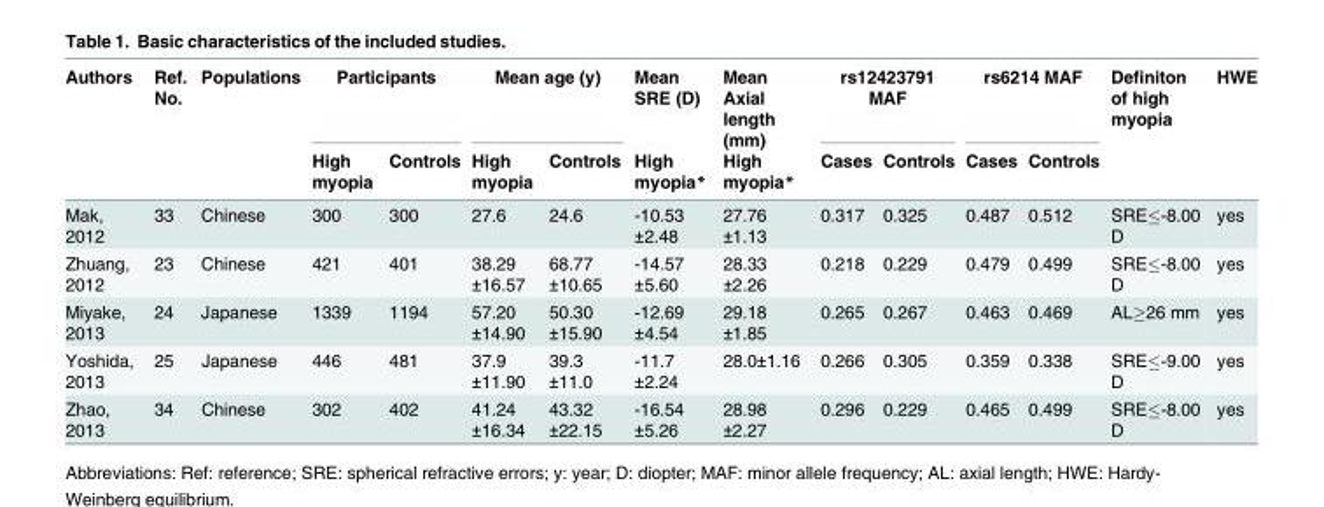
<table><thead><tr><td rowspan="2">Authors</td><td rowspan="2">Ref. No.</td><td rowspan="2">Populations</td><td colspan="2">Participants</td><td colspan="2">Mean age (y)</td><td rowspan="2">Mean SRE (D) High myopia*</td><td rowspan="2">Mean Axial length (mm) High myopia*</td><td colspan="2">rs12423791 MAF</td><td colspan="2">rs6214 MAF</td><td rowspan="2">Definiton of high myopia</td><td rowspan="2">HWE</td></tr><tr><td>High myopia</td><td>Controls</td><td>High myopia</td><td>Controls</td><td>Cases</td><td>Controls</td><td>Cases</td><td>Controls</td></tr></thead><tbody><tr><td>Mak, 2012</td><td>33</td><td>Chinese</td><td>300</td><td>300</td><td>27.6</td><td>24.6</td><td>-10.53 ±2.48</td><td>27.76 ±1.13</td><td>0.317</td><td>0.325</td><td>0.487</td><td>0.512</td><td>SRE≤-8.00 D</td><td>yes</td></tr><tr><td>Zhuang, 2012</td><td>23</td><td>Chinese</td><td>421</td><td>401</td><td>38.29 ±16.57</td><td>68.77 ±10.65</td><td>-14.57 ±5.60</td><td>28.33 ±2.26</td><td>0.218</td><td>0.229</td><td>0.479</td><td>0.499</td><td>SRE≤-8.00 D</td><td>yes</td></tr><tr><td>Miyake, 2013</td><td>24</td><td>Japanese</td><td>1339</td><td>1194</td><td>57.20 ±14.90</td><td>50.30 ±15.90</td><td>-12.69 ±4.54</td><td>29.18 ±1.85</td><td>0.265</td><td>0.267</td><td>0.463</td><td>0.469</td><td>AL≥26 mm</td><td>yes</td></tr><tr><td>Yoshida, 2013</td><td>25</td><td>Japanese</td><td>446</td><td>481</td><td>37.9 ±11.90</td><td>39.3 ±11.0</td><td>-11.7 ±2.24</td><td>28.0±1.16</td><td>0.266</td><td>0.305</td><td>0.359</td><td>0.338</td><td>SRE≤-9.00 D</td><td>yes</td></tr><tr><td>Zhao, 2013</td><td>34</td><td>Chinese</td><td>302</td><td>402</td><td>41.24 ±16.34</td><td>43.32 ±22.15</td><td>-16.54 ±5.26</td><td>28.98 ±2.27</td><td>0.296</td><td>0.229</td><td>0.465</td><td>0.499</td><td>SRE≤-8.00 D</td><td>yes</td></tr></tbody></table>